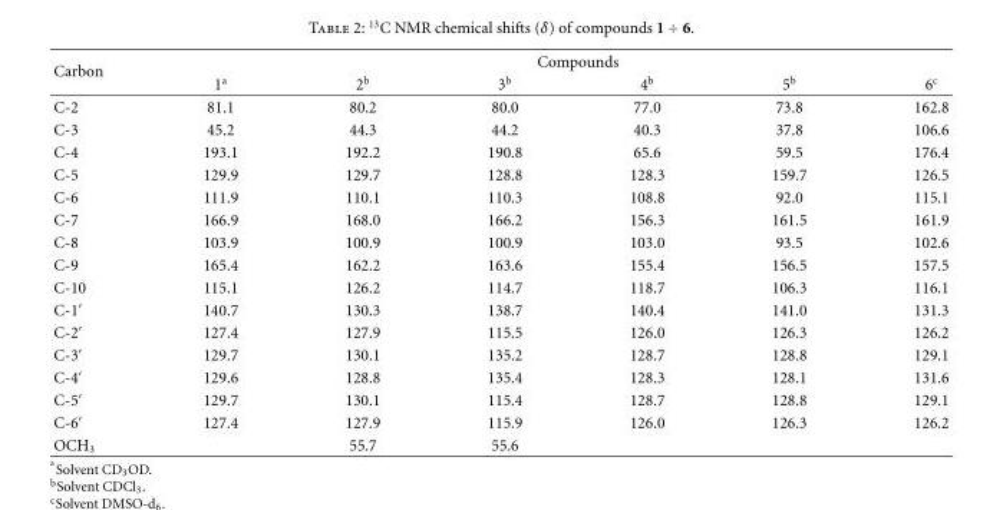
<table><thead><tr><td rowspan="2">Carbon</td><td colspan="6">Compounds</td></tr><tr><td>1<sup>a</sup></td><td>2<sup>b</sup></td><td>3<sup>b</sup></td><td>4<sup>b</sup></td><td>5<sup>b</sup></td><td>6<sup>c</sup></td></tr></thead><tbody><tr><td>C-2</td><td>81.1</td><td>80.2</td><td>80.0</td><td>77.0</td><td>73.8</td><td>162.8</td></tr><tr><td>C-3</td><td>45.2</td><td>44.3</td><td>44.2</td><td>40.3</td><td>37.8</td><td>106.6</td></tr><tr><td>C-4</td><td>193.1</td><td>192.2</td><td>190.8</td><td>65.6</td><td>59.5</td><td>176.4</td></tr><tr><td>C-5</td><td>129.9</td><td>129.7</td><td>128.8</td><td>128.3</td><td>159.7</td><td>126.5</td></tr><tr><td>C-6</td><td>111.9</td><td>110.1</td><td>110.3</td><td>108.8</td><td>92.0</td><td>115.1</td></tr><tr><td>C-7</td><td>166.9</td><td>168.0</td><td>166.2</td><td>156.3</td><td>161.5</td><td>161.9</td></tr><tr><td>C-8</td><td>103.9</td><td>100.9</td><td>100.9</td><td>103.0</td><td>93.5</td><td>102.6</td></tr><tr><td>C-9</td><td>165.4</td><td>162.2</td><td>163.6</td><td>155.4</td><td>156.5</td><td>157.5</td></tr><tr><td>C-10</td><td>115.1</td><td>126.2</td><td>114.7</td><td>118.7</td><td>106.3</td><td>116.1</td></tr><tr><td>C-1′</td><td>140.7</td><td>130.3</td><td>138.7</td><td>140.4</td><td>141.0</td><td>131.3</td></tr><tr><td>C-2′</td><td>127.4</td><td>127.9</td><td>115.5</td><td>126.0</td><td>126.3</td><td>126.2</td></tr><tr><td>C-3′</td><td>129.7</td><td>130.1</td><td>135.2</td><td>128.7</td><td>128.8</td><td>129.1</td></tr><tr><td>C-4′</td><td>129.6</td><td>128.8</td><td>135.4</td><td>128.3</td><td>128.1</td><td>131.6</td></tr><tr><td>C-5′</td><td>129.7</td><td>130.1</td><td>115.4</td><td>128.7</td><td>128.8</td><td>129.1</td></tr><tr><td>C-6′</td><td>127.4</td><td>127.9</td><td>115.9</td><td>126.0</td><td>126.3</td><td>126.2</td></tr><tr><td>OCH<sub>3</sub></td><td></td><td>55.7</td><td>55.6</td><td></td><td></td><td></td></tr></tbody></table>